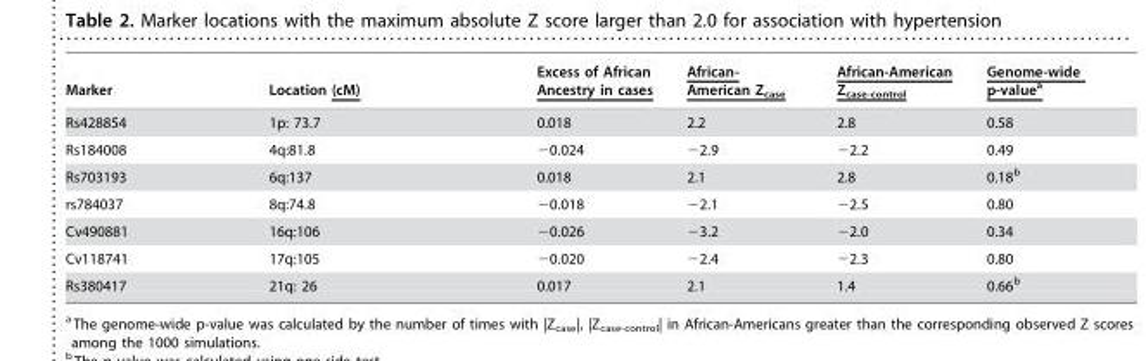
<table><thead><tr><td>Marker</td><td>Location (cM)</td><td>Excess of African Ancestry in cases</td><td>African- American Z<sub>case</sub></td><td>African-American Z<sub>case-control</sub></td><td>Genome-wide p-valuea</td></tr></thead><tbody><tr><td>Rs428854</td><td>1p: 73.7</td><td>0.018</td><td>2.2</td><td>2.8</td><td>0.58</td></tr><tr><td>Rs184008</td><td>4q:81.8</td><td>−0.024</td><td>−2.9</td><td>−2.2</td><td>0.49</td></tr><tr><td>Rs703193</td><td>6q:137</td><td>0.018</td><td>2.1</td><td>2.8</td><td>0.18<sup>b</sup></td></tr><tr><td>rs784037</td><td>8q:74.8</td><td>−0.018</td><td>−2.1</td><td>−2.5</td><td>0.80</td></tr><tr><td>Cv490881</td><td>16q:106</td><td>−0.026</td><td>−3.2</td><td>−2.0</td><td>0.34</td></tr><tr><td>Cv118741</td><td>17q:105</td><td>−0.020</td><td>−2.4</td><td>−2.3</td><td>0.80</td></tr><tr><td>Rs380417</td><td>21q: 26</td><td>0.017</td><td>2.1</td><td>1.4</td><td>0.66<sup>b</sup></td></tr></tbody></table>